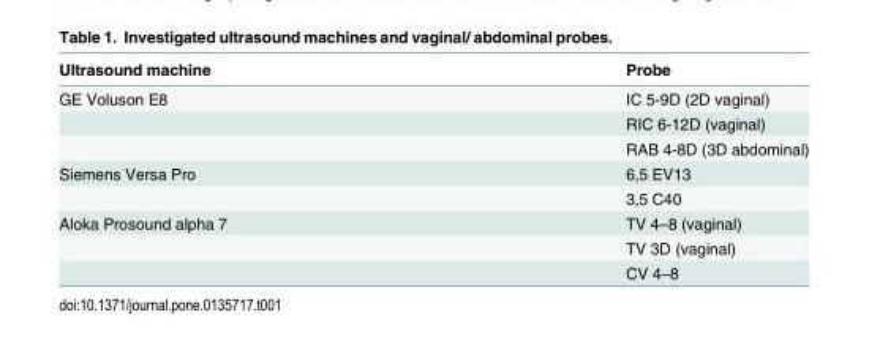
<table><thead><tr><td>Ultrasound machine</td><td>Probe</td></tr></thead><tbody><tr><td rowspan="3">GE Voluson E8</td><td>IC 5-9D (2D vaginal)</td></tr><tr><td>RIC 6-12D (vaginal)</td></tr><tr><td>RAB 4-8D (3D abdominal)</td></tr><tr><td rowspan="2">Siemens Versa Pro</td><td>6,5 EV13</td></tr><tr><td>3,5 C40</td></tr><tr><td rowspan="3">Aloka Prosound alpha 7</td><td>TV 4–8 (vaginal)</td></tr><tr><td>TV 3D (vaginal)</td></tr><tr><td>CV 4–8</td></tr></tbody></table>